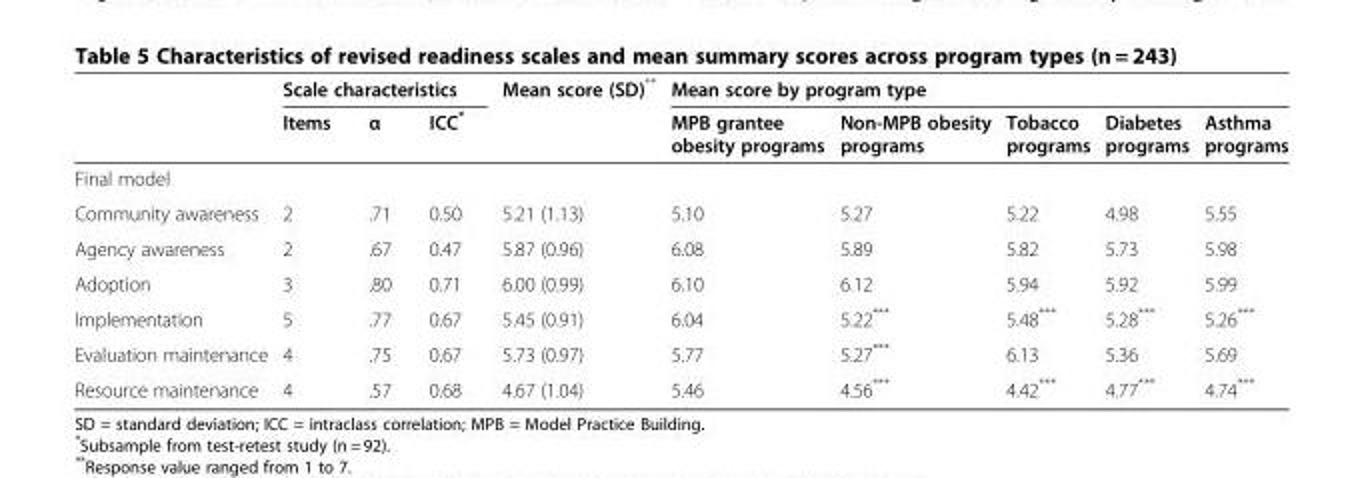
<table><thead><tr><td rowspan="2"></td><td colspan="3">Scale characteristics</td><td rowspan="2">Mean score (SD)**</td><td colspan="5">Mean score by program type</td></tr><tr><td>Items</td><td>α</td><td>ICC*</td><td>MPB grantee obesity programs</td><td>Non-MPB obesity programs</td><td>Tobacco programs</td><td>Diabetes programs</td><td>Asthma programs</td></tr></thead><tbody><tr><td colspan="10">Final model</td></tr><tr><td>Community awareness</td><td>2</td><td>.71</td><td>0.50</td><td>5.21 (1.13)</td><td>5.10</td><td>5.27</td><td>5.22</td><td>4.98</td><td>5.55</td></tr><tr><td>Agency awareness</td><td>2</td><td>.67</td><td>0.47</td><td>5.87 (0.96)</td><td>6.08</td><td>5.89</td><td>5.82</td><td>5.73</td><td>5.98</td></tr><tr><td>Adoption</td><td>3</td><td>.80</td><td>0.71</td><td>6.00 (0.99)</td><td>6.10</td><td>6.12</td><td>5.94</td><td>5.92</td><td>5.99</td></tr><tr><td>Implementation</td><td>5</td><td>.77</td><td>0.67</td><td>5.45 (0.91)</td><td>6.04</td><td>5.22***</td><td>5.48***</td><td>5.28***</td><td>5.26***</td></tr><tr><td>Evaluation maintenance</td><td>4</td><td>.75</td><td>0.67</td><td>5.73 (0.97)</td><td>5.77</td><td>5.27***</td><td>6.13</td><td>5.36</td><td>5.69</td></tr><tr><td>Resource maintenance</td><td>4</td><td>.57</td><td>0.68</td><td>4.67 (1.04)</td><td>5.46</td><td>4.56***</td><td>4.42***</td><td>4.77***</td><td>4.74***</td></tr></tbody></table>